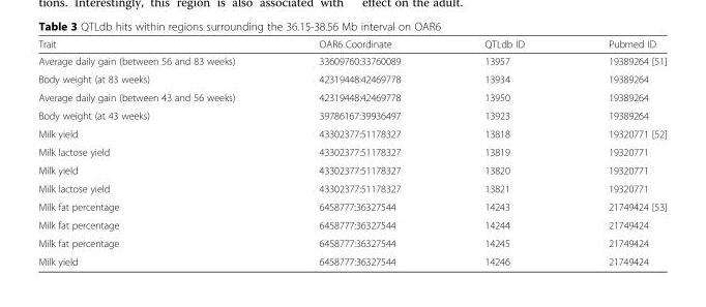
<table><thead><tr><td>Trait</td><td>OAR6 Coordinate</td><td>QTLdb ID</td><td>Pubmed ID</td></tr></thead><tbody><tr><td>Average daily gain (between 56 and 83 weeks)</td><td>33609760:33760089</td><td>13957</td><td>19389264 [51]</td></tr><tr><td>Body weight (at 83 weeks)</td><td>42319448:42469778</td><td>13934</td><td>19389264</td></tr><tr><td>Average daily gain (between 43 and 56 weeks)</td><td>42319448:42469778</td><td>13950</td><td>19389264</td></tr><tr><td>Body weight (at 43 weeks)</td><td>39786167:39936497</td><td>13923</td><td>19389264</td></tr><tr><td>Milk yield</td><td>43302377:51178327</td><td>13818</td><td>19320771 [52]</td></tr><tr><td>Milk lactose yield</td><td>43302377:51178327</td><td>13819</td><td>19320771</td></tr><tr><td>Milk yield</td><td>43302377:51178327</td><td>13820</td><td>19320771</td></tr><tr><td>Milk lactose yield</td><td>43302377:51178327</td><td>13821</td><td>19320771</td></tr><tr><td>Milk fat percentage</td><td>6458777:36327544</td><td>14243</td><td>21749424 [53]</td></tr><tr><td>Milk fat percentage</td><td>6458777:36327544</td><td>14244</td><td>21749424</td></tr><tr><td>Milk fat percentage</td><td>6458777:36327544</td><td>14245</td><td>21749424</td></tr><tr><td>Milk yield</td><td>6458777:36327544</td><td>14246</td><td>21749424</td></tr></tbody></table>